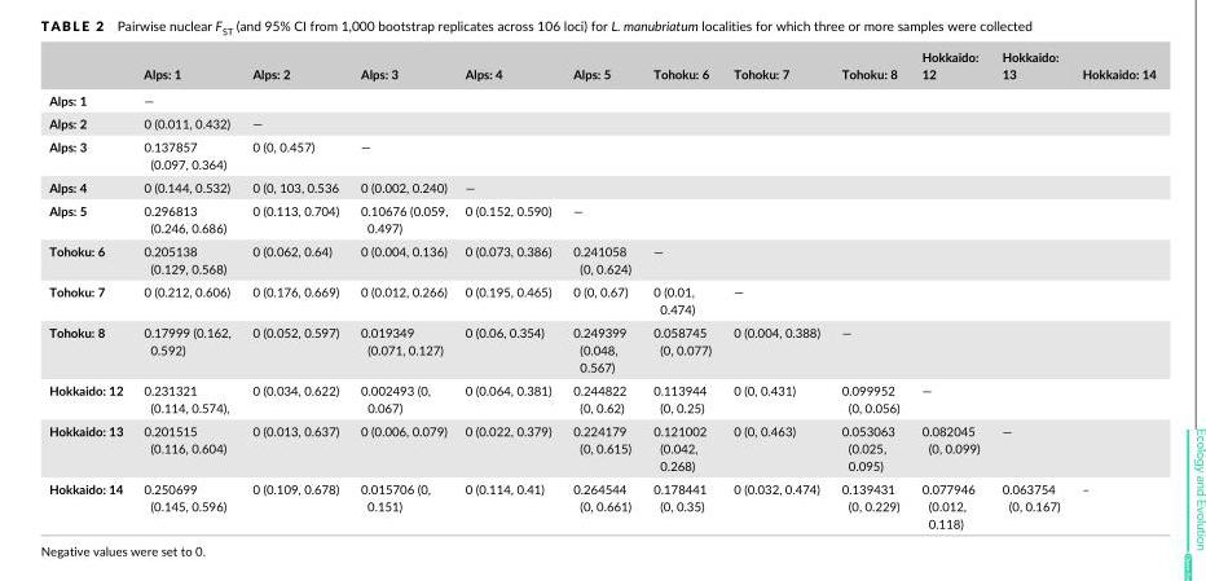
<table><thead><tr><td></td><td>Alps: 1</td><td>Alps: 2</td><td>Alps: 3</td><td>Alps: 4</td><td>Alps: 5</td><td>Tohoku: 6</td><td>Tohoku: 7</td><td>Tohoku: 8</td><td>Hokkaido: 12</td><td>Hokkaido: 13</td><td>Hokkaido: 14</td></tr></thead><tbody><tr><td>Alps: 1</td><td>—</td><td></td><td></td><td></td><td></td><td></td><td></td><td></td><td></td><td></td><td></td></tr><tr><td>Alps: 2</td><td>0 (0.011, 0.432)</td><td>—</td><td></td><td></td><td></td><td></td><td></td><td></td><td></td><td></td><td></td></tr><tr><td>Alps: 3</td><td>0.137857 (0.097, 0.364)</td><td>0 (0, 0.457)</td><td>—</td><td></td><td></td><td></td><td></td><td></td><td></td><td></td><td></td></tr><tr><td>Alps: 4</td><td>0 (0.144, 0.532)</td><td>0 (0, 103, 0.536</td><td>0 (0.002, 0.240)</td><td>—</td><td></td><td></td><td></td><td></td><td></td><td></td><td></td></tr><tr><td>Alps: 5</td><td>0.296813 (0.246, 0.686)</td><td>0 (0.113, 0.704)</td><td>0.10676 (0.059, 0.497)</td><td>0 (0.152, 0.590)</td><td>—</td><td></td><td></td><td></td><td></td><td></td><td></td></tr><tr><td>Tohoku: 6</td><td>0.205138 (0.129, 0.568)</td><td>0 (0.062, 0.64)</td><td>0 (0.004, 0.136)</td><td>0 (0.073, 0.386)</td><td>0.241058 (0, 0.624)</td><td>—</td><td></td><td></td><td></td><td></td><td></td></tr><tr><td>Tohoku: 7</td><td>0 (0.212, 0.606)</td><td>0 (0.176, 0.669)</td><td>0 (0.012, 0.266)</td><td>0 (0.195, 0.465)</td><td>0 (0, 0.67)</td><td>0 (0.01, 0.474)</td><td>—</td><td></td><td></td><td></td><td></td></tr><tr><td>Tohoku: 8</td><td>0.17999 (0.162, 0.592)</td><td>0 (0.052, 0.597)</td><td>0.019349 (0.071, 0.127)</td><td>0 (0.06, 0.354)</td><td>0.249399 (0.048, 0.567)</td><td>0.058745 (0, 0.077)</td><td>0 (0.004, 0.388)</td><td>—</td><td></td><td></td><td></td></tr><tr><td>Hokkaido: 12</td><td>0.231321 (0.114, 0.574),</td><td>0 (0.034, 0.622)</td><td>0.002493 (0, 0.067)</td><td>0 (0.064, 0.381)</td><td>0.244822 (0, 0.62)</td><td>0.113944 (0, 0.25)</td><td>0 (0, 0.431)</td><td>0.099952 (0, 0.056)</td><td>—</td><td></td><td></td></tr><tr><td>Hokkaido: 13</td><td>0.201515 (0.116, 0.604)</td><td>0 (0.013, 0.637)</td><td>0 (0.006, 0.079)</td><td>0 (0.022, 0.379)</td><td>0.224179 (0, 0.615)</td><td>0.121002 (0.042, 0.268)</td><td>0 (0, 0.463)</td><td>0.053063 (0.025, 0.095)</td><td>0.082045 (0, 0.099)</td><td>—</td><td></td></tr><tr><td>Hokkaido: 14</td><td>0.250699 (0.145, 0.596)</td><td>0 (0.109, 0.678)</td><td>0.015706 (0, 0.151)</td><td>0 (0.114, 0.41)</td><td>0.264544 (0, 0.661)</td><td>0.178441 (0, 0.35)</td><td>0 (0.032, 0.474)</td><td>0.139431 (0, 0.229)</td><td>0.077946 (0.012, 0.118)</td><td>0.063754 (0, 0.167)</td><td>–</td></tr></tbody></table>